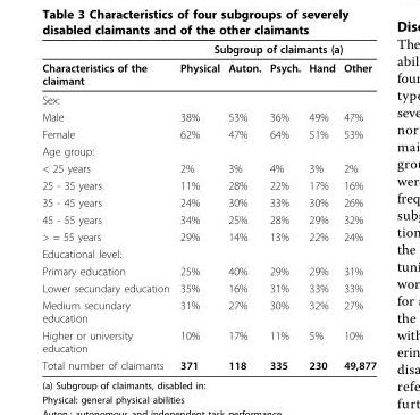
<table><thead><tr><td rowspan="2">Characteristics of the claimant</td><td colspan="5">Subgroup of claimants (a)</td></tr><tr><td>Physical</td><td>Auton.</td><td>Psych.</td><td>Hand</td><td>Other</td></tr></thead><tbody><tr><td colspan="6">Sex:</td></tr><tr><td>Male</td><td>38%</td><td>53%</td><td>36%</td><td>49%</td><td>47%</td></tr><tr><td>Female</td><td>62%</td><td>47%</td><td>64%</td><td>51%</td><td>53%</td></tr><tr><td colspan="6">Age group:</td></tr><tr><td>&lt; 25 years</td><td>2%</td><td>3%</td><td>4%</td><td>3%</td><td>2%</td></tr><tr><td>25 - 35 years</td><td>11%</td><td>28%</td><td>22%</td><td>17%</td><td>16%</td></tr><tr><td>35 - 45 years</td><td>24%</td><td>30%</td><td>33%</td><td>30%</td><td>26%</td></tr><tr><td>45 - 55 years</td><td>34%</td><td>25%</td><td>28%</td><td>29%</td><td>32%</td></tr><tr><td>&gt; = 55 years</td><td>29%</td><td>14%</td><td>13%</td><td>22%</td><td>24%</td></tr><tr><td colspan="6">Educational level:</td></tr><tr><td>Primary education</td><td>25%</td><td>40%</td><td>29%</td><td>29%</td><td>31%</td></tr><tr><td>Lower secundary education</td><td>35%</td><td>16%</td><td>31%</td><td>33%</td><td>33%</td></tr><tr><td>Medium secundary education</td><td>31%</td><td>27%</td><td>30%</td><td>32%</td><td>27%</td></tr><tr><td>Higher or university education</td><td>10%</td><td>17%</td><td>11%</td><td>5%</td><td>10%</td></tr><tr><td>Total number of claimants</td><td>371</td><td>118</td><td>335</td><td>230</td><td>49,877</td></tr></tbody></table>